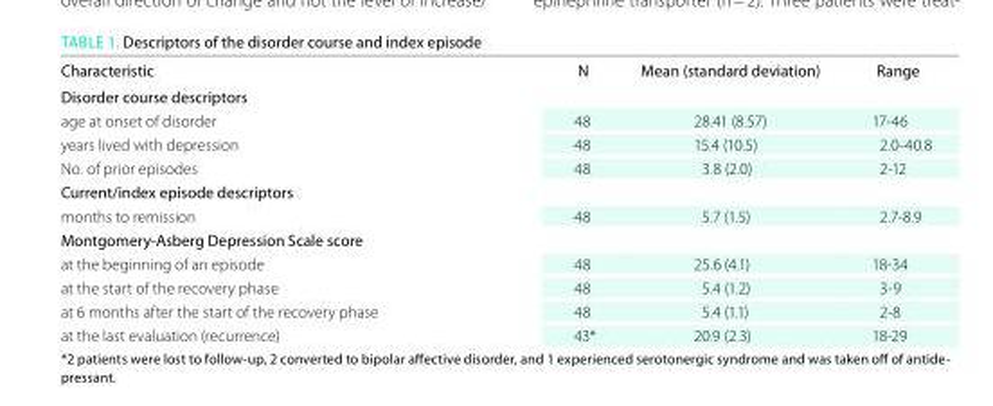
<table><thead><tr><td>Characteristic</td><td>N</td><td>Mean (standard deviation)</td><td>Range</td></tr></thead><tbody><tr><td colspan="4">Disorder course descriptors</td></tr><tr><td>age at onset of disorder</td><td>48</td><td>28.41 (8.57)</td><td>17-46</td></tr><tr><td>years lived with depression</td><td>48</td><td>15.4 (10.5)</td><td>2.0-40.8</td></tr><tr><td>No. of prior episodes</td><td>48</td><td>3.8 (2.0)</td><td>2-12</td></tr><tr><td colspan="4">Current/index episode descriptors</td></tr><tr><td>months to remission</td><td>48</td><td>5.7 (1.5)</td><td>2.7-8.9</td></tr><tr><td colspan="4">Montgomery-Asberg Depression Scale score</td></tr><tr><td>at the beginning of an episode</td><td>48</td><td>25.6 (4.1)</td><td>18-34</td></tr><tr><td>at the start of the recovery phase</td><td>48</td><td>5.4 (1.2)</td><td>3-9</td></tr><tr><td>at 6 months after the start of the recovery phase</td><td>48</td><td>5.4 (1.1)</td><td>2-8</td></tr><tr><td>at the last evaluation (recurrence)</td><td>43*</td><td>20.9 (2.3)</td><td>18-29</td></tr></tbody></table>